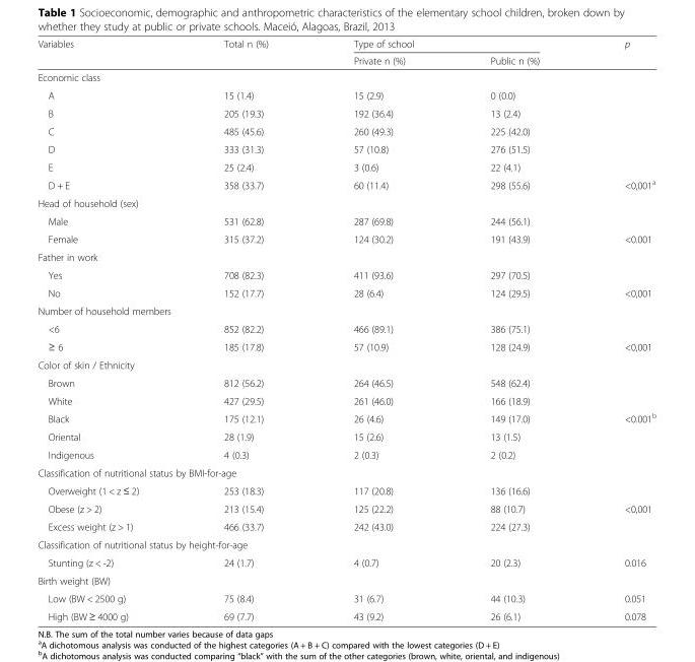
<table><thead><tr><td rowspan="2">Variables</td><td rowspan="2">Total n (%)</td><td colspan="2">Type of school</td><td rowspan="2">p</td></tr><tr><td>Private n (%)</td><td>Public n (%)</td></tr></thead><tbody><tr><td colspan="5">Economic class</td></tr><tr><td>A</td><td>15 (1.4)</td><td>15 (2.9)</td><td>0 (0.0)</td><td></td></tr><tr><td>B</td><td>205 (19.3)</td><td>192 (36.4)</td><td>13 (2.4)</td><td></td></tr><tr><td>C</td><td>485 (45.6)</td><td>260 (49.3)</td><td>225 (42.0)</td><td></td></tr><tr><td>D</td><td>333 (31.3)</td><td>57 (10.8)</td><td>276 (51.5)</td><td></td></tr><tr><td>E</td><td>25 (2.4)</td><td>3 (0.6)</td><td>22 (4.1)</td><td></td></tr><tr><td>D + E</td><td>358 (33.7)</td><td>60 (11.4)</td><td>298 (55.6)</td><td>&lt;0,001<sup>a</sup></td></tr><tr><td colspan="5">Head of household (sex)</td></tr><tr><td>Male</td><td>531 (62.8)</td><td>287 (69.8)</td><td>244 (56.1)</td><td></td></tr><tr><td>Female</td><td>315 (37.2)</td><td>124 (30.2)</td><td>191 (43.9)</td><td>&lt;0.001</td></tr><tr><td colspan="5">Father in work</td></tr><tr><td>Yes</td><td>708 (82.3)</td><td>411 (93.6)</td><td>297 (70.5)</td><td></td></tr><tr><td>No</td><td>152 (17.7)</td><td>28 (6.4)</td><td>124 (29.5)</td><td>&lt;0,001</td></tr><tr><td colspan="5">Number of household members</td></tr><tr><td>&lt;6</td><td>852 (82.2)</td><td>466 (89.1)</td><td>386 (75.1)</td><td></td></tr><tr><td>≥ 6</td><td>185 (17.8)</td><td>57 (10.9)</td><td>128 (24.9)</td><td>&lt;0,001</td></tr><tr><td colspan="5">Color of skin / Ethnicity</td></tr><tr><td>Brown</td><td>812 (56.2)</td><td>264 (46.5)</td><td>548 (62.4)</td><td></td></tr><tr><td>White</td><td>427 (29.5)</td><td>261 (46.0)</td><td>166 (18.9)</td><td></td></tr><tr><td>Black</td><td>175 (12.1)</td><td>26 (4.6)</td><td>149 (17.0)</td><td>&lt;0.001<sup>b</sup></td></tr><tr><td>Oriental</td><td>28 (1.9)</td><td>15 (2.6)</td><td>13 (1.5)</td><td></td></tr><tr><td>Indigenous</td><td>4 (0.3)</td><td>2 (0.3)</td><td>2 (0.2)</td><td></td></tr><tr><td colspan="5">Classification of nutritional status by BMI-for-age</td></tr><tr><td>Overweight (1 &lt; z ≤ 2)</td><td>253 (18.3)</td><td>117 (20.8)</td><td>136 (16.6)</td><td></td></tr><tr><td>Obese (z &gt; 2)</td><td>213 (15.4)</td><td>125 (22.2)</td><td>88 (10.7)</td><td>&lt;0,001</td></tr><tr><td>Excess weight (z &gt; 1)</td><td>466 (33.7)</td><td>242 (43.0)</td><td>224 (27.3)</td><td></td></tr><tr><td colspan="5">Classification of nutritional status by height-for-age</td></tr><tr><td>Stunting (z &lt; -2)</td><td>24 (1.7)</td><td>4 (0.7)</td><td>20 (2.3)</td><td>0.016</td></tr><tr><td colspan="5">Birth weight (BW)</td></tr><tr><td>Low (BW &lt; 2500 g)</td><td>75 (8.4)</td><td>31 (6.7)</td><td>44 (10.3)</td><td>0.051</td></tr><tr><td>High (BW ≥ 4000 g)</td><td>69 (7.7)</td><td>43 (9.2)</td><td>26 (6.1)</td><td>0.078</td></tr></tbody></table>